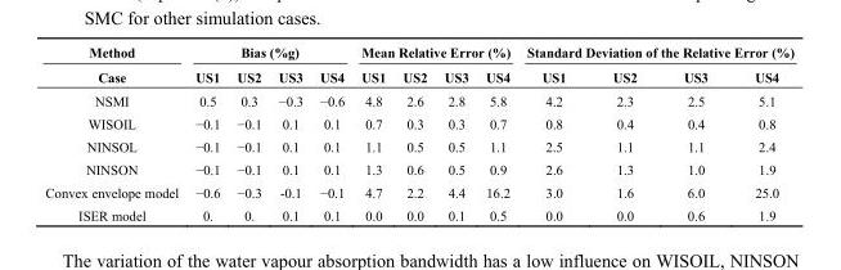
<table><thead><tr><td rowspan="2">Method Case</td><td colspan="4">Bias (%g)</td><td colspan="4">Mean Relative Error (%)</td><td colspan="4">Standard Deviation of the Relative Error (%)</td></tr><tr><td>US1</td><td>US2</td><td>US3</td><td>US4</td><td>US1</td><td>US2</td><td>US3</td><td>US4</td><td>US1</td><td>US2</td><td>US3</td><td>US4</td></tr></thead><tbody><tr><td>NSMI</td><td>0.5</td><td>0.3</td><td>−0.3</td><td>−0.6</td><td>4.8</td><td>2.6</td><td>2.8</td><td>5.8</td><td>4.2</td><td>2.3</td><td>2.5</td><td>5.1</td></tr><tr><td>WISOIL</td><td>−0.1</td><td>−0.1</td><td>0.1</td><td>0.1</td><td>0.7</td><td>0.3</td><td>0.3</td><td>0.7</td><td>0.8</td><td>0.4</td><td>0.4</td><td>0.8</td></tr><tr><td>NINSOL</td><td>−0.1</td><td>−0.1</td><td>0.1</td><td>0.1</td><td>1.1</td><td>0.5</td><td>0.5</td><td>1.1</td><td>2.5</td><td>1.1</td><td>1.1</td><td>2.4</td></tr><tr><td>NINSON</td><td>−0.1</td><td>−0.1</td><td>0.1</td><td>0.1</td><td>1.3</td><td>0.6</td><td>0.5</td><td>0.9</td><td>2.6</td><td>1.3</td><td>1.0</td><td>1.9</td></tr><tr><td>Convex envelope model</td><td>−0.6</td><td>−0.3</td><td>-0.1</td><td>−0.1</td><td>4.7</td><td>2.2</td><td>4.4</td><td>16.2</td><td>3.0</td><td>1.6</td><td>6.0</td><td>25.0</td></tr><tr><td>ISER model</td><td>0.</td><td>0.</td><td>0.1</td><td>0.1</td><td>0.0</td><td>0.0</td><td>0.1</td><td>0.5</td><td>0.0</td><td>0.0</td><td>0.6</td><td>1.9</td></tr></tbody></table>